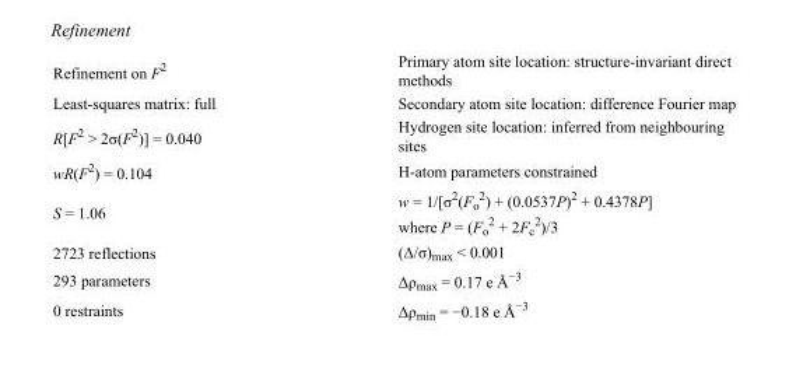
<table><tbody><tr><td>Refinement on F<sup>2</sup></td><td>Primary atom site location: structure-invariant direct methods</td></tr><tr><td>Least-squares matrix: full</td><td>Secondary atom site location: difference Fourier map</td></tr><tr><td>R[F<sup>2</sup> &gt; 2σ(F<sup>2</sup>)] = 0.040</td><td>Hydrogen site location: inferred from neighbouring sites</td></tr><tr><td>wR(F<sup>2</sup>) = 0.104</td><td>H-atom parameters constrained</td></tr><tr><td>S = 1.06</td><td>w = 1/[σ<sup>2</sup>(F<sub>o</sub> <sup>2</sup>) + (0.0537P)<sup>2</sup> + 0.4378P] where P = (F<sub>o</sub> <sup>2</sup> + 2F<sub>c</sub> <sup>2</sup>)/3</td></tr><tr><td>2723 reflections</td><td>(Δ/σ)<sub>max</sub> &lt; 0.001</td></tr><tr><td>293 parameters</td><td>Δρ<sub>max</sub> = 0.17 e Å<sup>−3</sup></td></tr><tr><td>0 restraints</td><td>Δρ<sub>min</sub> = −0.18 e Å<sup>−3</sup></td></tr></tbody></table>